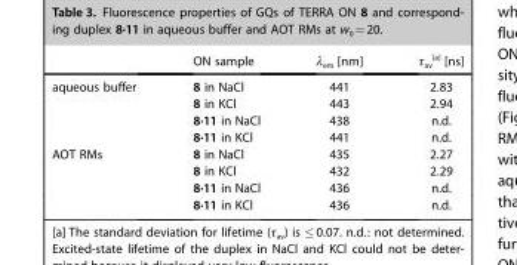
<table><thead><tr><td></td><td>ON sample</td><td>λ<sub>em</sub> [nm]</td><td>τ<sub>av</sub> <sup>[a]</sup> [ns]</td></tr></thead><tbody><tr><td rowspan="4">aqueous buffer</td><td>8 in NaCl</td><td>441</td><td>2.83</td></tr><tr><td>8 in KCl</td><td>443</td><td>2.94</td></tr><tr><td>8·11 in NaCl</td><td>438</td><td>n.d.</td></tr><tr><td>8·11 in KCl</td><td>441</td><td>n.d.</td></tr><tr><td rowspan="4">AOT RMs</td><td>8 in NaCl</td><td>435</td><td>2.27</td></tr><tr><td>8 in KCl</td><td>432</td><td>2.29</td></tr><tr><td>8·11 in NaCl</td><td>436</td><td>n.d.</td></tr><tr><td>8·11 in KCl</td><td>436</td><td>n.d.</td></tr></tbody></table>